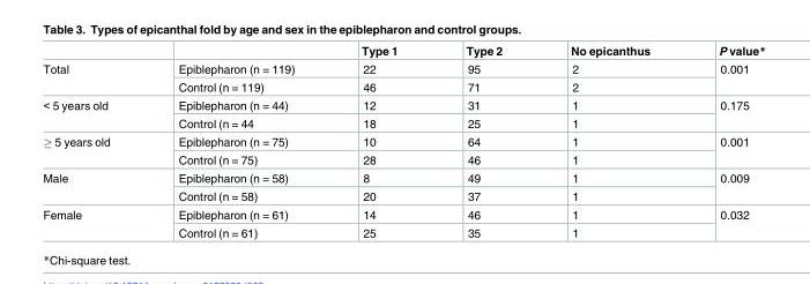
<table><thead><tr><td></td><td></td><td>Type 1</td><td>Type 2</td><td>No epicanthus</td><td>P value*</td></tr></thead><tbody><tr><td rowspan="2">Total</td><td>Epiblepharon (n = 119)</td><td>22</td><td>95</td><td>2</td><td rowspan="2">0.001</td></tr><tr><td>Control (n = 119)</td><td>46</td><td>71</td><td>2</td></tr><tr><td rowspan="2">&lt; 5 years old</td><td>Epiblepharon (n = 44)</td><td>12</td><td>31</td><td>1</td><td rowspan="2">0.175</td></tr><tr><td>Control (n = 44</td><td>18</td><td>25</td><td>1</td></tr><tr><td rowspan="2">≥ 5 years old</td><td>Epiblepharon (n = 75)</td><td>10</td><td>64</td><td>1</td><td rowspan="2">0.001</td></tr><tr><td>Control (n = 75)</td><td>28</td><td>46</td><td>1</td></tr><tr><td rowspan="2">Male</td><td>Epiblepharon (n = 58)</td><td>8</td><td>49</td><td>1</td><td rowspan="2">0.009</td></tr><tr><td>Control (n = 58)</td><td>20</td><td>37</td><td>1</td></tr><tr><td rowspan="2">Female</td><td>Epiblepharon (n = 61)</td><td>14</td><td>46</td><td>1</td><td rowspan="2">0.032</td></tr><tr><td>Control (n = 61)</td><td>25</td><td>35</td><td>1</td></tr></tbody></table>